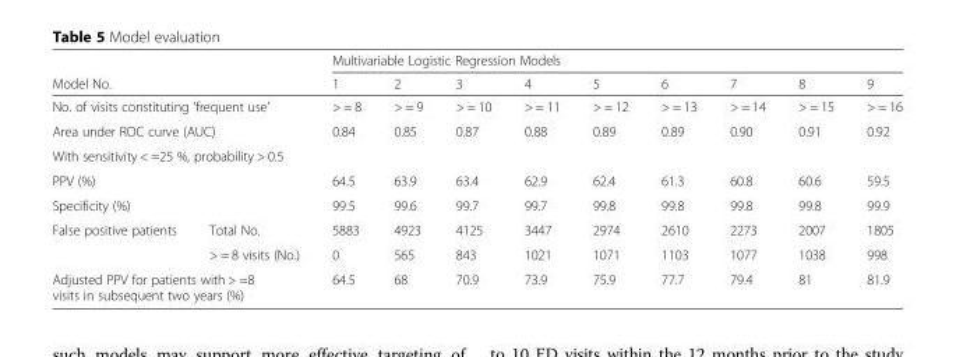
<table><thead><tr><td></td><td></td><td colspan="9">Multivariable Logistic Regression Models</td></tr><tr><td colspan="2">Model No.</td><td>1</td><td>2</td><td>3</td><td>4</td><td>5</td><td>6</td><td>7</td><td>8</td><td>9</td></tr></thead><tbody><tr><td colspan="2">No. of visits constituting ‘frequent use’</td><td>&gt; = 8</td><td>&gt; = 9</td><td>&gt; = 10</td><td>&gt; = 11</td><td>&gt; = 12</td><td>&gt; = 13</td><td>&gt; = 14</td><td>&gt; = 15</td><td>&gt; = 16</td></tr><tr><td colspan="2">Area under ROC curve (AUC)</td><td>0.84</td><td>0.85</td><td>0.87</td><td>0.88</td><td>0.89</td><td>0.89</td><td>0.90</td><td>0.91</td><td>0.92</td></tr><tr><td colspan="11">With sensitivity &lt; =25 %, probability &gt; 0.5</td></tr><tr><td colspan="2">PPV (%)</td><td>64.5</td><td>63.9</td><td>63.4</td><td>62.9</td><td>62.4</td><td>61.3</td><td>60.8</td><td>60.6</td><td>59.5</td></tr><tr><td colspan="2">Specificity (%)</td><td>99.5</td><td>99.6</td><td>99.7</td><td>99.7</td><td>99.8</td><td>99.8</td><td>99.8</td><td>99.8</td><td>99.9</td></tr><tr><td rowspan="2">False positive patients</td><td>Total No.</td><td>5883</td><td>4923</td><td>4125</td><td>3447</td><td>2974</td><td>2610</td><td>2273</td><td>2007</td><td>1805</td></tr><tr><td>&gt; = 8 visits (No.)</td><td>0</td><td>565</td><td>843</td><td>1021</td><td>1071</td><td>1103</td><td>1077</td><td>1038</td><td>998</td></tr><tr><td colspan="2">Adjusted PPV for patients with &gt; =8 visits in subsequent two years (%)</td><td>64.5</td><td>68</td><td>70.9</td><td>73.9</td><td>75.9</td><td>77.7</td><td>79.4</td><td>81</td><td>81.9</td></tr></tbody></table>